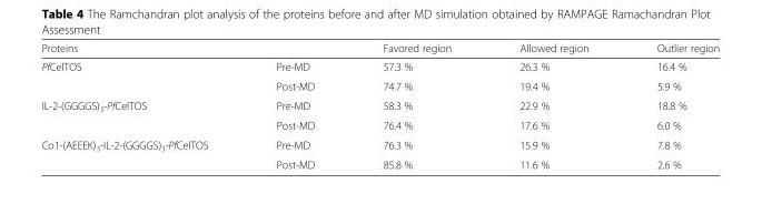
<table><thead><tr><td>Proteins</td><td></td><td>Favored region</td><td>Allowed region</td><td>Outlier region</td></tr></thead><tbody><tr><td rowspan="2">PfCelTOS</td><td>Pre-MD</td><td>57.3 %</td><td>26.3 %</td><td>16.4 %</td></tr><tr><td>Post-MD</td><td>74.7 %</td><td>19.4 %</td><td>5.9 %</td></tr><tr><td rowspan="2">IL-2-(GGGGS)<sub>3</sub>-PfCelTOS</td><td>Pre-MD</td><td>58.3 %</td><td>22.9 %</td><td>18.8 %</td></tr><tr><td>Post-MD</td><td>76.4 %</td><td>17.6 %</td><td>6.0 %</td></tr><tr><td rowspan="2">Co1-(AEEEK)<sub>3</sub>-IL-2-(GGGGS)<sub>3</sub>-PfCelTOS</td><td>Pre-MD</td><td>76.3 %</td><td>15.9 %</td><td>7.8 %</td></tr><tr><td>Post-MD</td><td>85.8 %</td><td>11.6 %</td><td>2.6 %</td></tr></tbody></table>